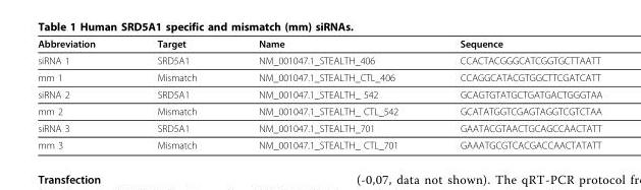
<table><thead><tr><td>Abbreviation</td><td>Target</td><td>Name</td><td>Sequence</td></tr></thead><tbody><tr><td>siRNA 1</td><td>SRD5A1</td><td>NM_001047.1_STEALTH_406</td><td>CCACTACGGGCATCGGTGCTTAATT</td></tr><tr><td>mm 1</td><td>Mismatch</td><td>NM_001047.1_STEALTH_CTL_406</td><td>CCAGGCATACGTGGCTTCGATCATT</td></tr><tr><td>siRNA 2</td><td>SRD5A1</td><td>NM_001047.1_STEALTH_ 542</td><td>GCAGTGTATGCTGATGACTGGGTAA</td></tr><tr><td>mm 2</td><td>Mismatch</td><td>NM_001047.1_STEALTH_ CTL_542</td><td>GCATATGGTCGAGTAGGTCGTCTAA</td></tr><tr><td>siRNA 3</td><td>SRD5A1</td><td>NM_001047.1_STEALTH_701</td><td>GAATACGTAACTGCAGCCAACTATT</td></tr><tr><td>mm 3</td><td>Mismatch</td><td>NM_001047.1_STEALTH_ CTL_701</td><td>GAAATGCGTCACGACCAACTATATT</td></tr></tbody></table>